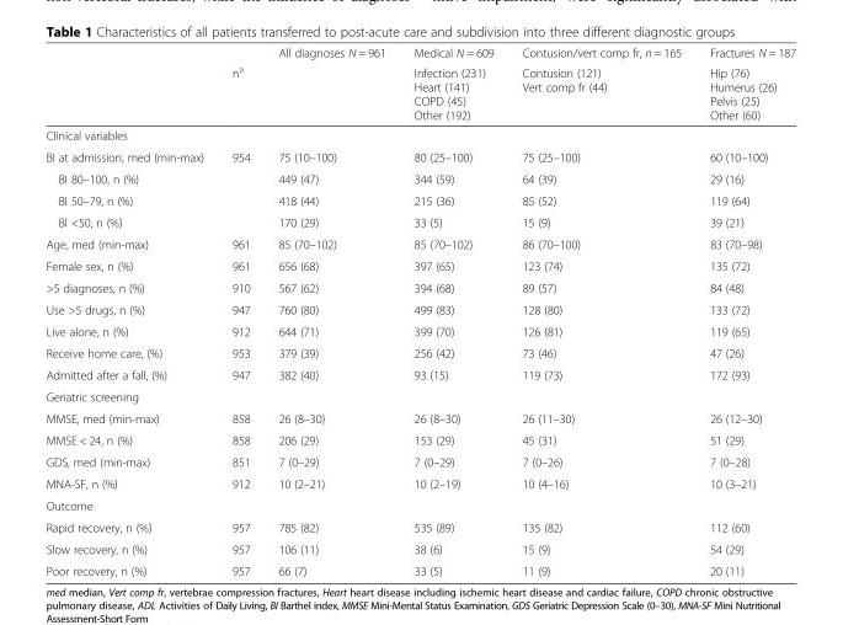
<table><thead><tr><td rowspan="2"></td><td rowspan="2">n<sup>a</sup></td><td rowspan="2">All diagnoses N = 961</td><td rowspan="2">Medical N = 609 Infection (231) Heart (141) COPD (45) Other (192)</td><td rowspan="2">Contusion/vert comp fr, n = 165 Contusion (121) Vert comp fr (44)</td><td rowspan="2">Fractures N = 187 Hip (76) Humerus (26) Pelvis (25) Other (60)</td></tr><tr></tr></thead><tbody><tr><td colspan="6">Clinical variables</td></tr><tr><td>BI at admission, med (min-max)</td><td>954</td><td>75 (10–100)</td><td>80 (25–100)</td><td>75 (25–100)</td><td>60 (10–100)</td></tr><tr><td>BI 80–100, n (%)</td><td></td><td>449 (47)</td><td>344 (59)</td><td>64 (39)</td><td>29 (16)</td></tr><tr><td>BI 50–79, n (%)</td><td></td><td>418 (44)</td><td>215 (36)</td><td>85 (52)</td><td>119 (64)</td></tr><tr><td>BI &lt;50, n (%)</td><td></td><td>170 (29)</td><td>33 (5)</td><td>15 (9)</td><td>39 (21)</td></tr><tr><td>Age, med (min-max)</td><td>961</td><td>85 (70–102)</td><td>85 (70–102)</td><td>86 (70–100)</td><td>83 (70–98)</td></tr><tr><td>Female sex, n (%)</td><td>961</td><td>656 (68)</td><td>397 (65)</td><td>123 (74)</td><td>135 (72)</td></tr><tr><td>&gt;5 diagnoses, n (%)</td><td>910</td><td>567 (62)</td><td>394 (68)</td><td>89 (57)</td><td>84 (48)</td></tr><tr><td>Use &gt;5 drugs, n (%)</td><td>947</td><td>760 (80)</td><td>499 (83)</td><td>128 (80)</td><td>133 (72)</td></tr><tr><td>Live alone, n (%)</td><td>912</td><td>644 (71)</td><td>399 (70)</td><td>126 (81)</td><td>119 (65)</td></tr><tr><td>Receive home care, (%)</td><td>953</td><td>379 (39)</td><td>256 (42)</td><td>73 (46)</td><td>47 (26)</td></tr><tr><td>Admitted after a fall, (%)</td><td>947</td><td>382 (40)</td><td>93 (15)</td><td>119 (73)</td><td>172 (93)</td></tr><tr><td colspan="6">Geriatric screening</td></tr><tr><td>MMSE, med (min-max)</td><td>858</td><td>26 (8–30)</td><td>26 (8–30)</td><td>26 (11–30)</td><td>26 (12–30)</td></tr><tr><td>MMSE &lt; 24, n (%)</td><td>858</td><td>206 (29)</td><td>153 (29)</td><td>45 (31)</td><td>51 (29)</td></tr><tr><td>GDS, med (min-max)</td><td>851</td><td>7 (0–29)</td><td>7 (0–29)</td><td>7 (0–26)</td><td>7 (0–28)</td></tr><tr><td>MNA-SF, n (%)</td><td>912</td><td>10 (2–21)</td><td>10 (2–19)</td><td>10 (4–16)</td><td>10 (3–21)</td></tr><tr><td colspan="6">Outcome</td></tr><tr><td>Rapid recovery, n (%)</td><td>957</td><td>785 (82)</td><td>535 (89)</td><td>135 (82)</td><td>112 (60)</td></tr><tr><td>Slow recovery, n (%)</td><td>957</td><td>106 (11)</td><td>38 (6)</td><td>15 (9)</td><td>54 (29)</td></tr><tr><td>Poor recovery, n (%)</td><td>957</td><td>66 (7)</td><td>33 (5)</td><td>11 (9)</td><td>20 (11)</td></tr></tbody></table>